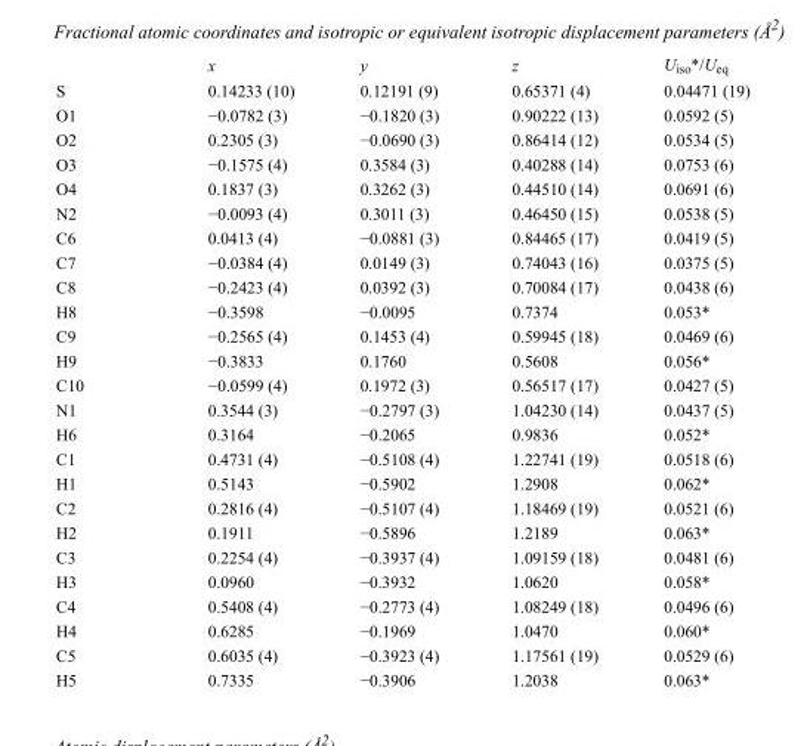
<table><thead><tr><td></td><td>x</td><td>y</td><td>z</td><td>U<sub>iso</sub>*/U<sub>eq</sub></td></tr></thead><tbody><tr><td>S</td><td>0.14233 (10)</td><td>0.12191 (9)</td><td>0.65371 (4)</td><td>0.04471 (19)</td></tr><tr><td>O1</td><td>−0.0782 (3)</td><td>−0.1820 (3)</td><td>0.90222 (13)</td><td>0.0592 (5)</td></tr><tr><td>O2</td><td>0.2305 (3)</td><td>−0.0690 (3)</td><td>0.86414 (12)</td><td>0.0534 (5)</td></tr><tr><td>O3</td><td>−0.1575 (4)</td><td>0.3584 (3)</td><td>0.40288 (14)</td><td>0.0753 (6)</td></tr><tr><td>O4</td><td>0.1837 (3)</td><td>0.3262 (3)</td><td>0.44510 (14)</td><td>0.0691 (6)</td></tr><tr><td>N2</td><td>−0.0093 (4)</td><td>0.3011 (3)</td><td>0.46450 (15)</td><td>0.0538 (5)</td></tr><tr><td>C6</td><td>0.0413 (4)</td><td>−0.0881 (3)</td><td>0.84465 (17)</td><td>0.0419 (5)</td></tr><tr><td>C7</td><td>−0.0384 (4)</td><td>0.0149 (3)</td><td>0.74043 (16)</td><td>0.0375 (5)</td></tr><tr><td>C8</td><td>−0.2423 (4)</td><td>0.0392 (3)</td><td>0.70084 (17)</td><td>0.0438 (6)</td></tr><tr><td>H8</td><td>−0.3598</td><td>−0.0095</td><td>0.7374</td><td>0.053*</td></tr><tr><td>C9</td><td>−0.2565 (4)</td><td>0.1453 (4)</td><td>0.59945 (18)</td><td>0.0469 (6)</td></tr><tr><td>H9</td><td>−0.3833</td><td>0.1760</td><td>0.5608</td><td>0.056*</td></tr><tr><td>C10</td><td>−0.0599 (4)</td><td>0.1972 (3)</td><td>0.56517 (17)</td><td>0.0427 (5)</td></tr><tr><td>N1</td><td>0.3544 (3)</td><td>−0.2797 (3)</td><td>1.04230 (14)</td><td>0.0437 (5)</td></tr><tr><td>H6</td><td>0.3164</td><td>−0.2065</td><td>0.9836</td><td>0.052*</td></tr><tr><td>C1</td><td>0.4731 (4)</td><td>−0.5108 (4)</td><td>1.22741 (19)</td><td>0.0518 (6)</td></tr><tr><td>H1</td><td>0.5143</td><td>−0.5902</td><td>1.2908</td><td>0.062*</td></tr><tr><td>C2</td><td>0.2816 (4)</td><td>−0.5107 (4)</td><td>1.18469 (19)</td><td>0.0521 (6)</td></tr><tr><td>H2</td><td>0.1911</td><td>−0.5896</td><td>1.2189</td><td>0.063*</td></tr><tr><td>C3</td><td>0.2254 (4)</td><td>−0.3937 (4)</td><td>1.09159 (18)</td><td>0.0481 (6)</td></tr><tr><td>H3</td><td>0.0960</td><td>−0.3932</td><td>1.0620</td><td>0.058*</td></tr><tr><td>C4</td><td>0.5408 (4)</td><td>−0.2773 (4)</td><td>1.08249 (18)</td><td>0.0496 (6)</td></tr><tr><td>H4</td><td>0.6285</td><td>−0.1969</td><td>1.0470</td><td>0.060*</td></tr><tr><td>C5</td><td>0.6035 (4)</td><td>−0.3923 (4)</td><td>1.17561 (19)</td><td>0.0529 (6)</td></tr><tr><td>H5</td><td>0.7335</td><td>−0.3906</td><td>1.2038</td><td>0.063*</td></tr></tbody></table>